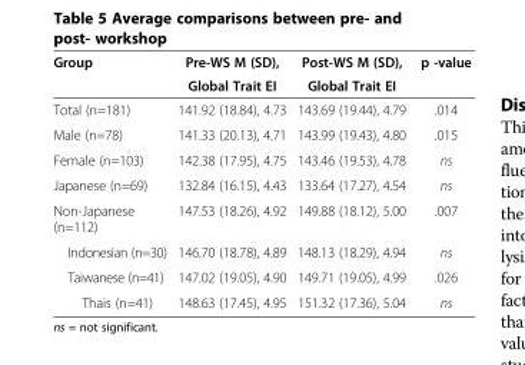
<table><thead><tr><td rowspan="2">Group</td><td rowspan="2">Pre-WS M (SD), Global Trait EI</td><td rowspan="2">Post-WS M (SD), Global Trait EI</td><td rowspan="2">p -value</td></tr><tr></tr></thead><tbody><tr><td>Total (n=181)</td><td>141.92 (18.84), 4.73</td><td>143.69 (19.44), 4.79</td><td>.014</td></tr><tr><td>Male (n=78)</td><td>141.33 (20.13), 4.71</td><td>143.99 (19.43), 4.80</td><td>.015</td></tr><tr><td>Female (n=103)</td><td>142.38 (17.95), 4.75</td><td>143.46 (19.53), 4.78</td><td>ns</td></tr><tr><td>Japanese (n=69)</td><td>132.84 (16.15), 4.43</td><td>133.64 (17.27), 4.54</td><td>ns</td></tr><tr><td>Non-Japanese (n=112)</td><td>147.53 (18.26), 4.92</td><td>149.88 (18.12), 5.00</td><td>.007</td></tr><tr><td>Indonesian (n=30)</td><td>146.70 (18.78), 4.89</td><td>148.13 (18.29), 4.94</td><td>ns</td></tr><tr><td>Taiwanese (n=41)</td><td>147.02 (19.05), 4.90</td><td>149.71 (19.05), 4.99</td><td>.026</td></tr><tr><td>Thais (n=41)</td><td>148.63 (17.45), 4.95</td><td>151.32 (17.36), 5.04</td><td>ns</td></tr></tbody></table>